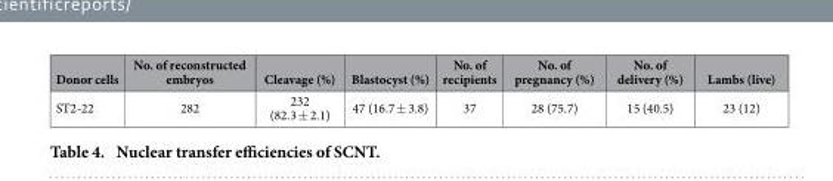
<table><thead><tr><td>Donor cells</td><td>No. of reconstructed embryos</td><td>Cleavage (%)</td><td>Blastocyst (%)</td><td>No. of recipients</td><td>No. of pregnancy (%)</td><td>No. of delivery (%)</td><td>Lambs (live)</td></tr></thead><tbody><tr><td>ST2-22</td><td>282</td><td>232 (82.3 ± 2.1)</td><td>47 (16.7 ± 3.8)</td><td>37</td><td>28 (75.7)</td><td>15 (40.5)</td><td>23 (12)</td></tr></tbody></table>